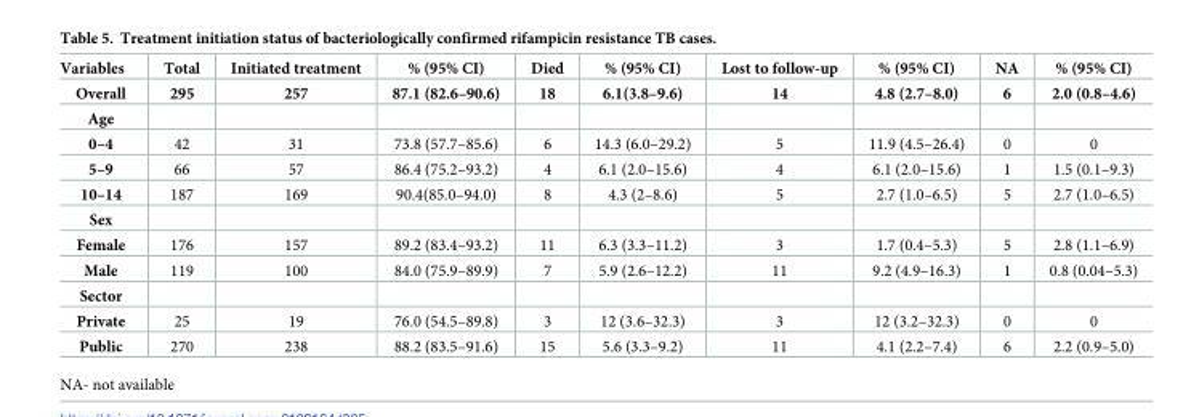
<table><thead><tr><td>Variables</td><td>Total</td><td>Initiated treatment</td><td>% (95% CI)</td><td>Died</td><td>% (95% CI)</td><td>Lost to follow-up</td><td>% (95% CI)</td><td>NA</td><td>% (95% CI)</td></tr></thead><tbody><tr><td>Overall</td><td>295</td><td>257</td><td>87.1 (82.6–90.6)</td><td>18</td><td>6.1(3.8–9.6)</td><td>14</td><td>4.8 (2.7–8.0)</td><td>6</td><td>2.0 (0.8–4.6)</td></tr><tr><td colspan="10">Age</td></tr><tr><td>0–4</td><td>42</td><td>31</td><td>73.8 (57.7–85.6)</td><td>6</td><td>14.3 (6.0–29.2)</td><td>5</td><td>11.9 (4.5–26.4)</td><td>0</td><td>0</td></tr><tr><td>5–9</td><td>66</td><td>57</td><td>86.4 (75.2–93.2)</td><td>4</td><td>6.1 (2.0–15.6)</td><td>4</td><td>6.1 (2.0–15.6)</td><td>1</td><td>1.5 (0.1–9.3)</td></tr><tr><td>10–14</td><td>187</td><td>169</td><td>90.4(85.0–94.0)</td><td>8</td><td>4.3 (2–8.6)</td><td>5</td><td>2.7 (1.0–6.5)</td><td>5</td><td>2.7 (1.0–6.5)</td></tr><tr><td colspan="10">Sex</td></tr><tr><td>Female</td><td>176</td><td>157</td><td>89.2 (83.4–93.2)</td><td>11</td><td>6.3 (3.3–11.2)</td><td>3</td><td>1.7 (0.4–5.3)</td><td>5</td><td>2.8 (1.1–6.9)</td></tr><tr><td>Male</td><td>119</td><td>100</td><td>84.0 (75.9–89.9)</td><td>7</td><td>5.9 (2.6–12.2)</td><td>11</td><td>9.2 (4.9–16.3)</td><td>1</td><td>0.8 (0.04–5.3)</td></tr><tr><td colspan="10">Sector</td></tr><tr><td>Private</td><td>25</td><td>19</td><td>76.0 (54.5–89.8)</td><td>3</td><td>12 (3.6–32.3)</td><td>3</td><td>12 (3.2–32.3)</td><td>0</td><td>0</td></tr><tr><td>Public</td><td>270</td><td>238</td><td>88.2 (83.5–91.6)</td><td>15</td><td>5.6 (3.3–9.2)</td><td>11</td><td>4.1 (2.2–7.4)</td><td>6</td><td>2.2 (0.9–5.0)</td></tr></tbody></table>